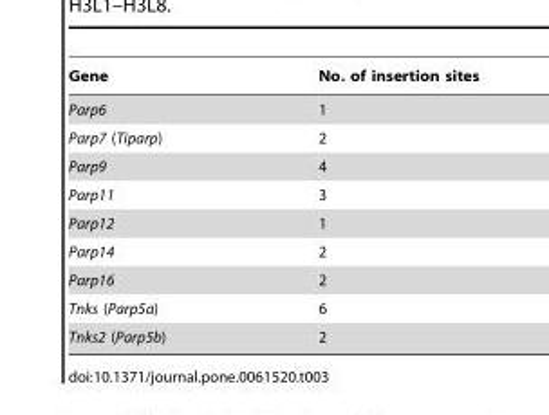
<table><thead><tr><td>Gene</td><td>No. of insertion sites</td></tr></thead><tbody><tr><td>Parp6</td><td>1</td></tr><tr><td>Parp7 (Tiparp)</td><td>2</td></tr><tr><td>Parp9</td><td>4</td></tr><tr><td>Parp11</td><td>3</td></tr><tr><td>Parp12</td><td>1</td></tr><tr><td>Parp14</td><td>2</td></tr><tr><td>Parp16</td><td>2</td></tr><tr><td>Tnks (Parp5a)</td><td>6</td></tr><tr><td>Tnks2 (Parp5b)</td><td>2</td></tr></tbody></table>